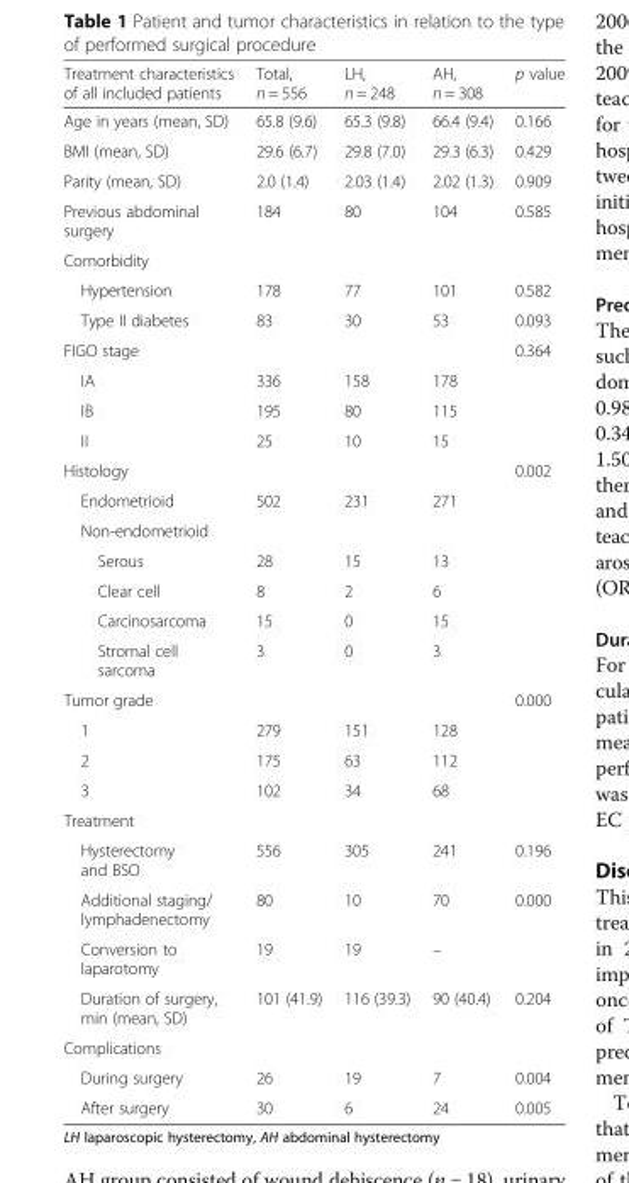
<table><thead><tr><td>Treatment characteristics of all included patients</td><td>Total, n = 556</td><td>LH, n = 248</td><td>AH, n = 308</td><td>p value</td></tr></thead><tbody><tr><td>Age in years (mean, SD)</td><td>65.8 (9.6)</td><td>65.3 (9.8)</td><td>66.4 (9.4)</td><td>0.166</td></tr><tr><td>BMI (mean, SD)</td><td>29.6 (6.7)</td><td>29.8 (7.0)</td><td>29.3 (6.3)</td><td>0.429</td></tr><tr><td>Parity (mean, SD)</td><td>2.0 (1.4)</td><td>2.03 (1.4)</td><td>2.02 (1.3)</td><td>0.909</td></tr><tr><td>Previous abdominal surgery</td><td>184</td><td>80</td><td>104</td><td>0.585</td></tr><tr><td colspan="5">Comorbidity</td></tr><tr><td>Hypertension</td><td>178</td><td>77</td><td>101</td><td>0.582</td></tr><tr><td>Type II diabetes</td><td>83</td><td>30</td><td>53</td><td>0.093</td></tr><tr><td>FIGO stage</td><td></td><td></td><td></td><td>0.364</td></tr><tr><td>IA</td><td>336</td><td>158</td><td>178</td><td></td></tr><tr><td>IB</td><td>195</td><td>80</td><td>115</td><td></td></tr><tr><td>II</td><td>25</td><td>10</td><td>15</td><td></td></tr><tr><td>Histology</td><td></td><td></td><td></td><td>0.002</td></tr><tr><td>Endometrioid</td><td>502</td><td>231</td><td>271</td><td></td></tr><tr><td colspan="5">Non-endometrioid</td></tr><tr><td>Serous</td><td>28</td><td>15</td><td>13</td><td></td></tr><tr><td>Clear cell</td><td>8</td><td>2</td><td>6</td><td></td></tr><tr><td>Carcinosarcoma</td><td>15</td><td>0</td><td>15</td><td></td></tr><tr><td>Stromal cell sarcoma</td><td>3</td><td>0</td><td>3</td><td></td></tr><tr><td>Tumor grade</td><td></td><td></td><td></td><td>0.000</td></tr><tr><td>1</td><td>279</td><td>151</td><td>128</td><td></td></tr><tr><td>2</td><td>175</td><td>63</td><td>112</td><td></td></tr><tr><td>3</td><td>102</td><td>34</td><td>68</td><td></td></tr><tr><td colspan="5">Treatment</td></tr><tr><td>Hysterectomy and BSO</td><td>556</td><td>305</td><td>241</td><td>0.196</td></tr><tr><td>Additional staging/ lymphadenectomy</td><td>80</td><td>10</td><td>70</td><td>0.000</td></tr><tr><td>Conversion to laparotomy</td><td>19</td><td>19</td><td>–</td><td></td></tr><tr><td>Duration of surgery, min (mean, SD)</td><td>101 (41.9)</td><td>116 (39.3)</td><td>90 (40.4)</td><td>0.204</td></tr><tr><td colspan="5">Complications</td></tr><tr><td>During surgery</td><td>26</td><td>19</td><td>7</td><td>0.004</td></tr><tr><td>After surgery</td><td>30</td><td>6</td><td>24</td><td>0.005</td></tr></tbody></table>